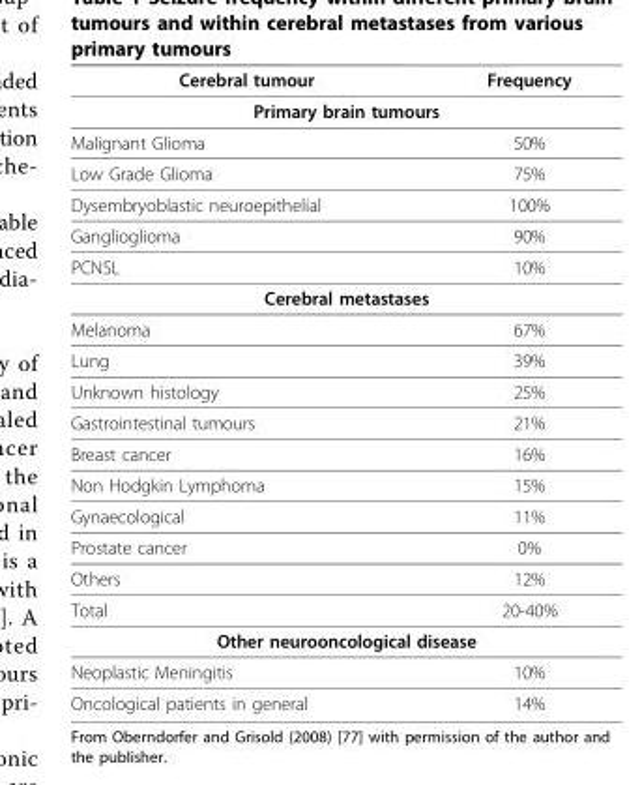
<table><thead><tr><td>Cerebral tumour</td><td>Frequency</td></tr></thead><tbody><tr><td colspan="2">Primary brain tumours</td></tr><tr><td>Malignant Glioma</td><td>50%</td></tr><tr><td>Low Grade Glioma</td><td>75%</td></tr><tr><td>Dysembryoblastic neuroepithelial</td><td>100%</td></tr><tr><td>Ganglioglioma</td><td>90%</td></tr><tr><td>PCNSL</td><td>10%</td></tr><tr><td colspan="2">Cerebral metastases</td></tr><tr><td>Melanoma</td><td>67%</td></tr><tr><td>Lung</td><td>39%</td></tr><tr><td>Unknown histology</td><td>25%</td></tr><tr><td>Gastrointestinal tumours</td><td>21%</td></tr><tr><td>Breast cancer</td><td>16%</td></tr><tr><td>Non Hodgkin Lymphoma</td><td>15%</td></tr><tr><td>Gynaecological</td><td>11%</td></tr><tr><td>Prostate cancer</td><td>0%</td></tr><tr><td>Others</td><td>12%</td></tr><tr><td>Total</td><td>20-40%</td></tr><tr><td colspan="2">Other neurooncological disease</td></tr><tr><td>Neoplastic Meningitis</td><td>10%</td></tr><tr><td>Oncological patients in general</td><td>14%</td></tr></tbody></table>